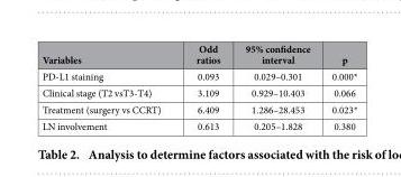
<table><thead><tr><td>Variables</td><td>Odd ratios</td><td>95% confidence interval</td><td>p</td></tr></thead><tbody><tr><td>PD-L1 staining</td><td>0.093</td><td>0.029–0.301</td><td>0.000*</td></tr><tr><td>Clinical stage (T2 vsT3-T4)</td><td>3.109</td><td>0.929–10.403</td><td>0.066</td></tr><tr><td>Treatment (surgery vs CCRT)</td><td>6.409</td><td>1.286–28.453</td><td>0.023*</td></tr><tr><td>LN involvement</td><td>0.613</td><td>0.205–1.828</td><td>0.380</td></tr></tbody></table>